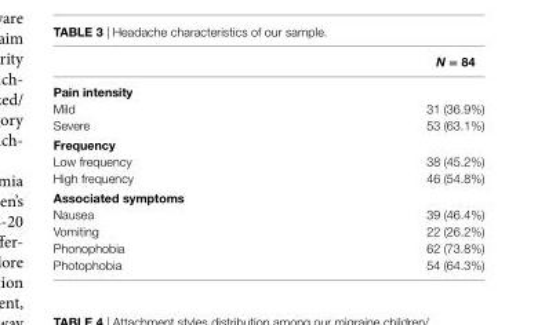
<table><thead><tr><td></td><td>N = 84</td></tr></thead><tbody><tr><td colspan="2">Pain intensity</td></tr><tr><td>Mild</td><td>31 (36.9%)</td></tr><tr><td>Severe</td><td>53 (63.1%)</td></tr><tr><td colspan="2">Frequency</td></tr><tr><td>Low frequency</td><td>38 (45.2%)</td></tr><tr><td>High frequency</td><td>46 (54.8%)</td></tr><tr><td colspan="2">associated symptoms</td></tr><tr><td>Nausea</td><td>39 (46.4%)</td></tr><tr><td>Vomiting</td><td>22 (26.2%)</td></tr><tr><td>Phonophobia</td><td>62 (73.8%)</td></tr><tr><td>Photophobia</td><td>54 (64.3%)</td></tr></tbody></table>